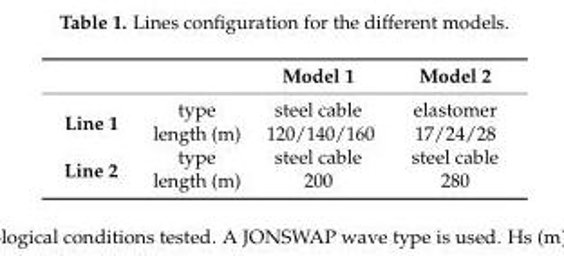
<table><thead><tr><td></td><td></td><td>Model 1</td><td>Model 2</td></tr></thead><tbody><tr><td rowspan="2">Line 1</td><td>type</td><td>steel cable</td><td>elastomer</td></tr><tr><td>length (m)</td><td>120/140/160</td><td>17/24/28</td></tr><tr><td rowspan="2">Line 2</td><td>type</td><td>steel cable</td><td>steel cable</td></tr><tr><td>length (m)</td><td>200</td><td>280</td></tr></tbody></table>